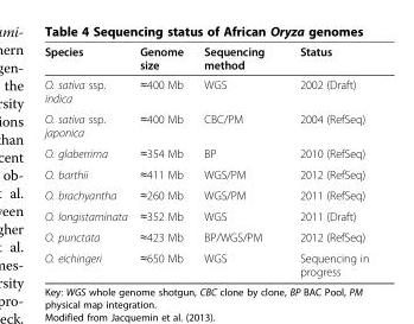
<table><thead><tr><td>Species</td><td>Genome size</td><td>Sequencing method</td><td>Status</td></tr></thead><tbody><tr><td>O. sativa ssp. indica</td><td>≈400 Mb</td><td>WGS</td><td>2002 (Draft)</td></tr><tr><td>O. sativa ssp. japonica</td><td>≈400 Mb</td><td>CBC/PM</td><td>2004 (RefSeq)</td></tr><tr><td>O. glaberrima</td><td>≈354 Mb</td><td>BP</td><td>2010 (RefSeq)</td></tr><tr><td>O. barthii</td><td>≈411 Mb</td><td>WGS/PM</td><td>2012 (RefSeq)</td></tr><tr><td>O. brachyantha</td><td>≈260 Mb</td><td>WGS/PM</td><td>2011 (RefSeq)</td></tr><tr><td>O. longistaminata</td><td>≈352 Mb</td><td>WGS</td><td>2011 (Draft)</td></tr><tr><td>O. punctata</td><td>≈423 Mb</td><td>BP/WGS/PM</td><td>2012 (RefSeq)</td></tr><tr><td>O. eichingeri</td><td>≈650 Mb</td><td>WGS</td><td>Sequencing in progress</td></tr></tbody></table>